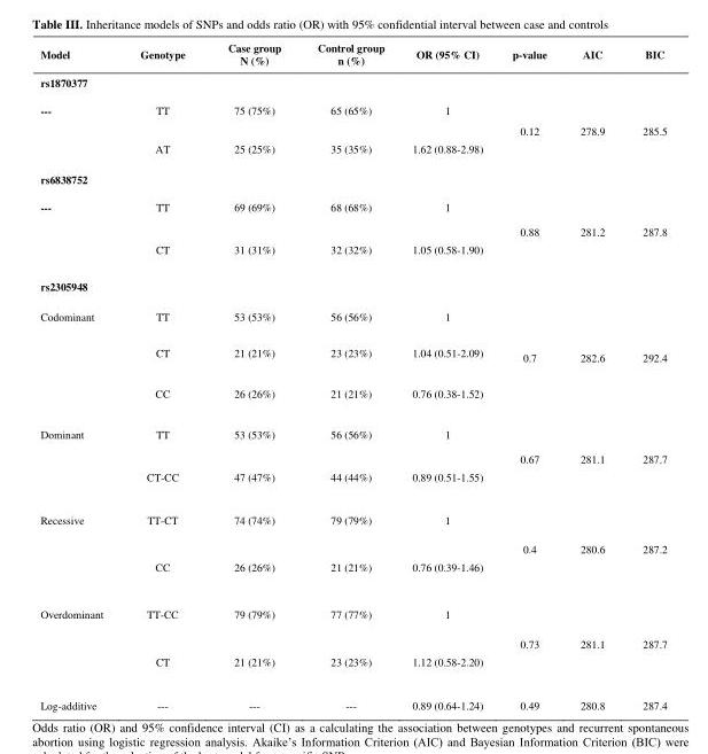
<table><thead><tr><td>Model</td><td>Genotype</td><td>Case group N (%)</td><td>Control group n (%)</td><td>OR (95% CI)</td><td>p-value</td><td>AIC</td><td>BIC</td></tr></thead><tbody><tr><td colspan="8">rs1870377</td></tr><tr><td rowspan="2">---</td><td>TT</td><td>75 (75%)</td><td>65 (65%)</td><td>1</td><td rowspan="2">0.12</td><td rowspan="2">278.9</td><td rowspan="2">285.5</td></tr><tr><td>AT</td><td>25 (25%)</td><td>35 (35%)</td><td>1.62 (0.88-2.98)</td></tr><tr><td colspan="8">rs6838752</td></tr><tr><td rowspan="2">---</td><td>TT</td><td>69 (69%)</td><td>68 (68%)</td><td>1</td><td rowspan="2">0.88</td><td rowspan="2">281.2</td><td rowspan="2">287.8</td></tr><tr><td>CT</td><td>31 (31%)</td><td>32 (32%)</td><td>1.05 (0.58-1.90)</td></tr><tr><td colspan="8">rs2305948</td></tr><tr><td rowspan="3">Codominant</td><td>TT</td><td>53 (53%)</td><td>56 (56%)</td><td>1</td><td rowspan="3">0.7</td><td rowspan="3">282.6</td><td rowspan="3">292.4</td></tr><tr><td>CT</td><td>21 (21%)</td><td>23 (23%)</td><td>1.04 (0.51-2.09)</td></tr><tr><td>CC</td><td>26 (26%)</td><td>21 (21%)</td><td>0.76 (0.38-1.52)</td></tr><tr><td rowspan="2">Dominant</td><td>TT</td><td>53 (53%)</td><td>56 (56%)</td><td>1</td><td rowspan="2">0.67</td><td rowspan="2">281.1</td><td rowspan="2">287.7</td></tr><tr><td>CT-CC</td><td>47 (47%)</td><td>44 (44%)</td><td>0.89 (0.51-1.55)</td></tr><tr><td rowspan="2">Recessive</td><td>TT-CT</td><td>74 (74%)</td><td>79 (79%)</td><td>1</td><td rowspan="2">0.4</td><td rowspan="2">280.6</td><td rowspan="2">287.2</td></tr><tr><td>CC</td><td>26 (26%)</td><td>21 (21%)</td><td>0.76 (0.39-1.46)</td></tr><tr><td rowspan="2">Overdominant</td><td>TT-CC</td><td>79 (79%)</td><td>77 (77%)</td><td>1</td><td rowspan="2">0.73</td><td rowspan="2">281.1</td><td rowspan="2">287.7</td></tr><tr><td>CT</td><td>21 (21%)</td><td>23 (23%)</td><td>1.12 (0.58-2.20)</td></tr><tr><td>Log-additive</td><td>---</td><td>---</td><td>---</td><td>0.89 (0.64-1.24)</td><td>0.49</td><td>280.8</td><td>287.4</td></tr></tbody></table>